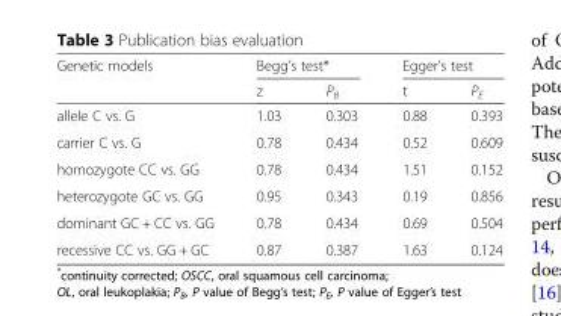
<table><thead><tr><td rowspan="2">Genetic models</td><td colspan="2">Begg’s test*</td><td colspan="2">Egger’s test</td></tr><tr><td>z</td><td>P<sub>B</sub></td><td>t</td><td>P<sub>E</sub></td></tr></thead><tbody><tr><td>allele C vs. G</td><td>1.03</td><td>0.303</td><td>0.88</td><td>0.393</td></tr><tr><td>carrier C vs. G</td><td>0.78</td><td>0.434</td><td>0.52</td><td>0.609</td></tr><tr><td>homozygote CC vs. GG</td><td>0.78</td><td>0.434</td><td>1.51</td><td>0.152</td></tr><tr><td>heterozygote GC vs. GG</td><td>0.95</td><td>0.343</td><td>0.19</td><td>0.856</td></tr><tr><td>dominant GC + CC vs. GG</td><td>0.78</td><td>0.434</td><td>0.69</td><td>0.504</td></tr><tr><td>recessive CC vs. GG + GC</td><td>0.87</td><td>0.387</td><td>1.63</td><td>0.124</td></tr></tbody></table>